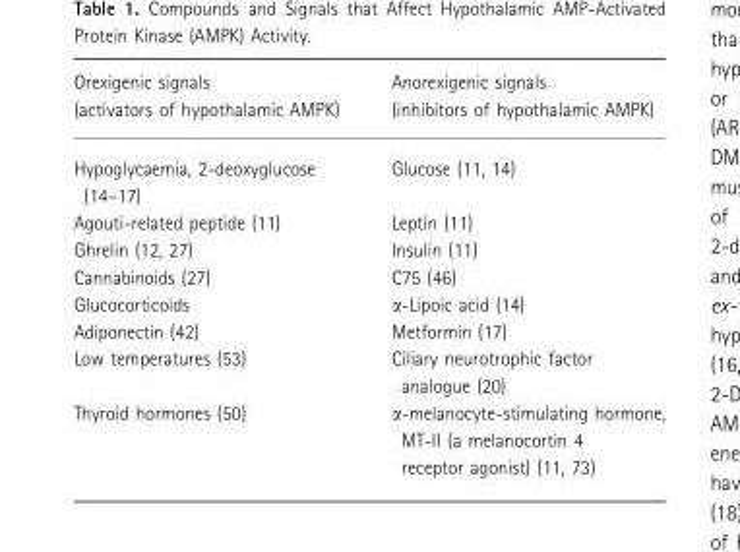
<table><thead><tr><td>Orexigenic signals (activators of hypothalamic AMPK)</td><td>Anorexigenic signals (inhibitors of hypothalamic AMPK)</td></tr></thead><tbody><tr><td>Hypoglycaemia, 2-deoxyglucose (14–17)</td><td>Glucose (11, 14)</td></tr><tr><td>Agouti-related peptide (11)</td><td>Leptin (11)</td></tr><tr><td>Ghrelin (12, 27)</td><td>Insulin (11)</td></tr><tr><td>Cannabinoids (27)</td><td>C75 (46)</td></tr><tr><td>Glucocorticoids</td><td>α-Lipoic acid (14)</td></tr><tr><td>Adiponectin (42)</td><td>Metformin (17)</td></tr><tr><td>Low temperatures (53)</td><td>Ciliary neurotrophic factor analogue (20)</td></tr><tr><td>Thyroid hormones (50)</td><td>α-melanocyte-stimulating hormone, MT-II (a melanocortin 4 receptor agonist) (11, 73)</td></tr></tbody></table>